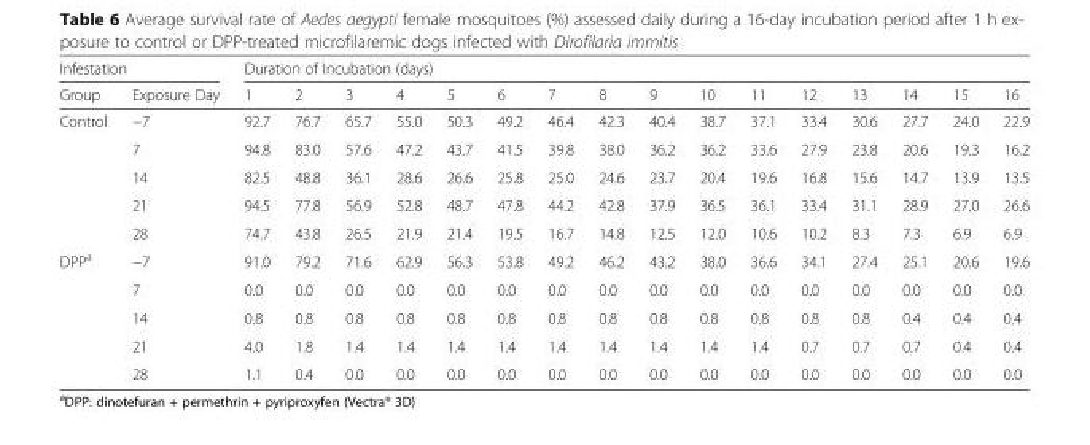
<table><thead><tr><td colspan="2">Infestation</td><td colspan="16">Duration of Incubation (days)</td></tr><tr><td>Group</td><td>Exposure Day</td><td>1</td><td>2</td><td>3</td><td>4</td><td>5</td><td>6</td><td>7</td><td>8</td><td>9</td><td>10</td><td>11</td><td>12</td><td>13</td><td>14</td><td>15</td><td>16</td></tr></thead><tbody><tr><td rowspan="5">Control</td><td>−7</td><td>92.7</td><td>76.7</td><td>65.7</td><td>55.0</td><td>50.3</td><td>49.2</td><td>46.4</td><td>42.3</td><td>40.4</td><td>38.7</td><td>37.1</td><td>33.4</td><td>30.6</td><td>27.7</td><td>24.0</td><td>22.9</td></tr><tr><td>7</td><td>94.8</td><td>83.0</td><td>57.6</td><td>47.2</td><td>43.7</td><td>41.5</td><td>39.8</td><td>38.0</td><td>36.2</td><td>36.2</td><td>33.6</td><td>27.9</td><td>23.8</td><td>20.6</td><td>19.3</td><td>16.2</td></tr><tr><td>14</td><td>82.5</td><td>48.8</td><td>36.1</td><td>28.6</td><td>26.6</td><td>25.8</td><td>25.0</td><td>24.6</td><td>23.7</td><td>20.4</td><td>19.6</td><td>16.8</td><td>15.6</td><td>14.7</td><td>13.9</td><td>13.5</td></tr><tr><td>21</td><td>94.5</td><td>77.8</td><td>56.9</td><td>52.8</td><td>48.7</td><td>47.8</td><td>44.2</td><td>42.8</td><td>37.9</td><td>36.5</td><td>36.1</td><td>33.4</td><td>31.1</td><td>28.9</td><td>27.0</td><td>26.6</td></tr><tr><td>28</td><td>74.7</td><td>43.8</td><td>26.5</td><td>21.9</td><td>21.4</td><td>19.5</td><td>16.7</td><td>14.8</td><td>12.5</td><td>12.0</td><td>10.6</td><td>10.2</td><td>8.3</td><td>7.3</td><td>6.9</td><td>6.9</td></tr><tr><td rowspan="5">DPP<sup>a</sup></td><td>−7</td><td>91.0</td><td>79.2</td><td>71.6</td><td>62.9</td><td>56.3</td><td>53.8</td><td>49.2</td><td>46.2</td><td>43.2</td><td>38.0</td><td>36.6</td><td>34.1</td><td>27.4</td><td>25.1</td><td>20.6</td><td>19.6</td></tr><tr><td>7</td><td>0.0</td><td>0.0</td><td>0.0</td><td>0.0</td><td>0.0</td><td>0.0</td><td>0.0</td><td>0.0</td><td>0.0</td><td>0.0</td><td>0.0</td><td>0.0</td><td>0.0</td><td>0.0</td><td>0.0</td><td>0.0</td></tr><tr><td>14</td><td>0.8</td><td>0.8</td><td>0.8</td><td>0.8</td><td>0.8</td><td>0.8</td><td>0.8</td><td>0.8</td><td>0.8</td><td>0.8</td><td>0.8</td><td>0.8</td><td>0.8</td><td>0.4</td><td>0.4</td><td>0.4</td></tr><tr><td>21</td><td>4.0</td><td>1.8</td><td>1.4</td><td>1.4</td><td>1.4</td><td>1.4</td><td>1.4</td><td>1.4</td><td>1.4</td><td>1.4</td><td>1.4</td><td>0.7</td><td>0.7</td><td>0.7</td><td>0.4</td><td>0.4</td></tr><tr><td>28</td><td>1.1</td><td>0.4</td><td>0.0</td><td>0.0</td><td>0.0</td><td>0.0</td><td>0.0</td><td>0.0</td><td>0.0</td><td>0.0</td><td>0.0</td><td>0.0</td><td>0.0</td><td>0.0</td><td>0.0</td><td>0.0</td></tr></tbody></table>